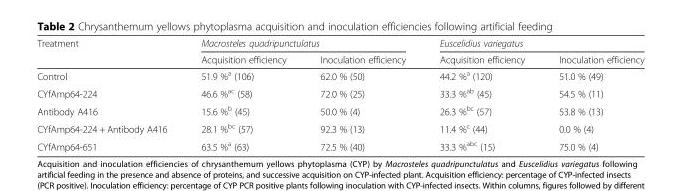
<table><thead><tr><td rowspan="2">Treatment</td><td colspan="2">Macrosteles quadripunctulatus</td><td colspan="2">Euscelidius variegatus</td></tr><tr><td>Acquisition efficiency</td><td>Inoculation efficiency</td><td>Acquisition efficiency</td><td>Inoculation efficiency</td></tr></thead><tbody><tr><td>Control</td><td>51.9 %<sup>a</sup> (106)</td><td>62.0 % (50)</td><td>44.2 %<sup>a</sup> (120)</td><td>51.0 % (49)</td></tr><tr><td>CYfAmp64-224</td><td>46.6 %<sup>ac</sup> (58)</td><td>72.0 % (25)</td><td>33.3 %<sup>ab</sup> (45)</td><td>54.5 % (11)</td></tr><tr><td>Antibody A416</td><td>15.6 %<sup>b</sup> (45)</td><td>50.0 % (4)</td><td>26.3 %<sup>bc</sup> (57)</td><td>53.8 % (13)</td></tr><tr><td>CYfAmp64-224 + Antibody A416</td><td>28.1 %<sup>bc</sup> (57)</td><td>92.3 % (13)</td><td>11.4 %<sup>c</sup> (44)</td><td>0.0 % (4)</td></tr><tr><td>CYfAmp64-651</td><td>63.5 %<sup>a</sup> (63)</td><td>72.5 % (40)</td><td>33.3 %<sup>abc</sup> (15)</td><td>75.0 % (4)</td></tr></tbody></table>